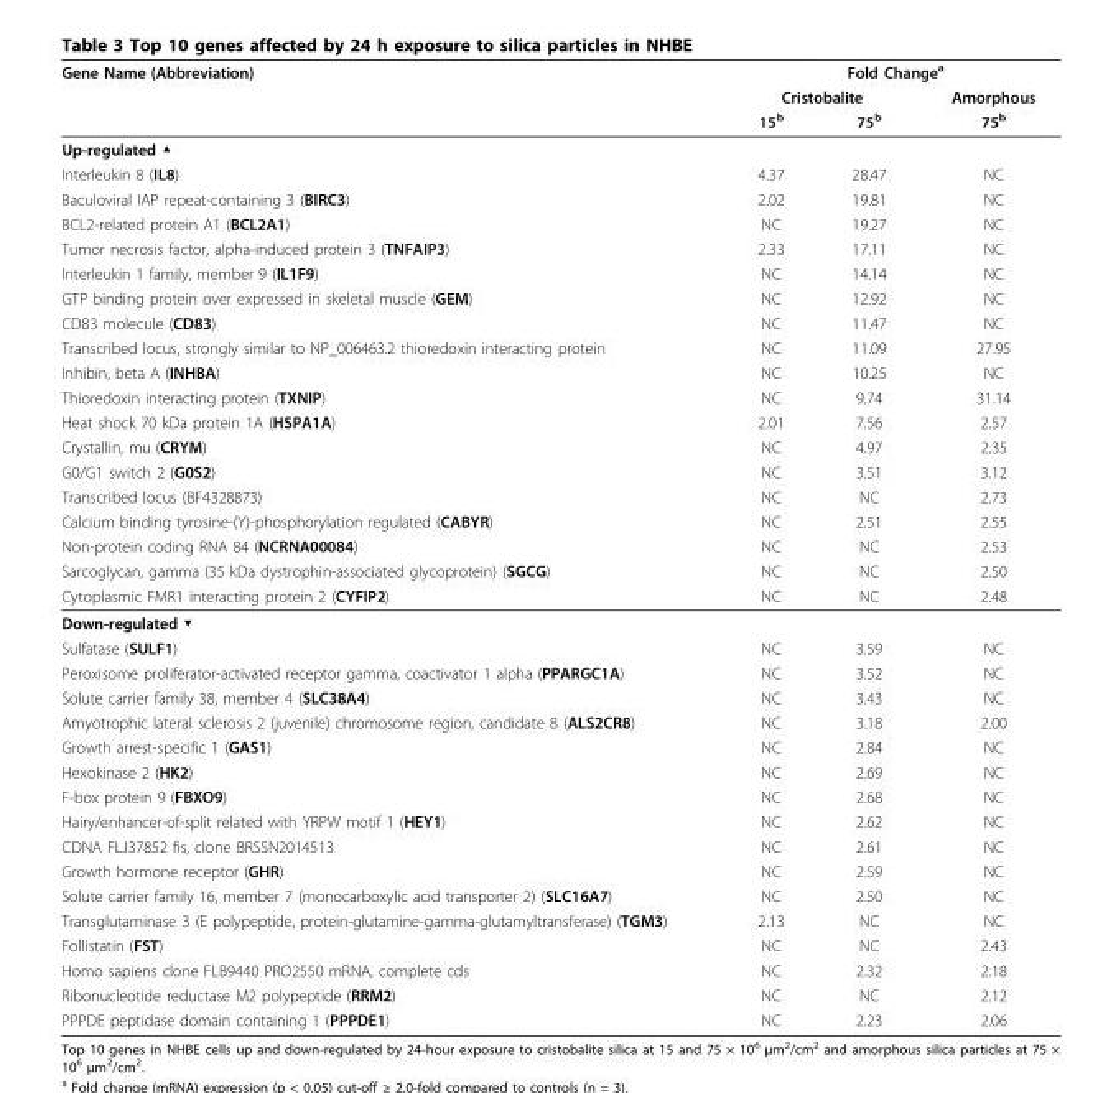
<table><thead><tr><td rowspan="3">Gene Name (Abbreviation)</td><td colspan="3">Fold Change<sup>a</sup></td></tr><tr><td colspan="2">Cristobalite</td><td rowspan="2">Amorphous 75<sup>b</sup></td></tr><tr><td>15<sup>b</sup></td><td>75<sup>b</sup></td></tr></thead><tbody><tr><td colspan="4">Up-regulated ▲</td></tr><tr><td>Interleukin 8 (IL8)</td><td>4.37</td><td>28.47</td><td>NC</td></tr><tr><td>Baculoviral IAP repeat-containing 3 (BIRC3)</td><td>2.02</td><td>19.81</td><td>NC</td></tr><tr><td>BCL2-related protein A1 (BCL2A1)</td><td>NC</td><td>19.27</td><td>NC</td></tr><tr><td>Tumor necrosis factor, alpha-induced protein 3 (TNFAIP3)</td><td>2.33</td><td>17.11</td><td>NC</td></tr><tr><td>Interleukin 1 family, member 9 (IL1F9)</td><td>NC</td><td>14.14</td><td>NC</td></tr><tr><td>GTP binding protein over expressed in skeletal muscle (GEM)</td><td>NC</td><td>12.92</td><td>NC</td></tr><tr><td>CD83 molecule (CD83)</td><td>NC</td><td>11.47</td><td>NC</td></tr><tr><td>Transcribed locus, strongly similar to NP_006463.2 thioredoxin interacting protein</td><td>NC</td><td>11.09</td><td>27.95</td></tr><tr><td>Inhibin, beta A (INHBA)</td><td>NC</td><td>10.25</td><td>NC</td></tr><tr><td>Thioredoxin interacting protein (TXNIP)</td><td>NC</td><td>9.74</td><td>31.14</td></tr><tr><td>Heat shock 70 kDa protein 1A (HSPA1A)</td><td>2.01</td><td>7.56</td><td>2.57</td></tr><tr><td>Crystallin, mu (CRYM)</td><td>NC</td><td>4.97</td><td>2.35</td></tr><tr><td>G0/G1 switch 2 (G0S2)</td><td>NC</td><td>3.51</td><td>3.12</td></tr><tr><td>Transcribed locus (BF4328873)</td><td>NC</td><td>NC</td><td>2.73</td></tr><tr><td>Calcium binding tyrosine-(Y)-phosphorylation regulated (CABYR)</td><td>NC</td><td>2.51</td><td>2.55</td></tr><tr><td>Non-protein coding RNA 84 (NCRNA00084)</td><td>NC</td><td>NC</td><td>2.53</td></tr><tr><td>Sarcoglycan, gamma (35 kDa dystrophin-associated glycoprotein) (SGCG)</td><td>NC</td><td>NC</td><td>2.50</td></tr><tr><td>Cytoplasmic FMR1 interacting protein 2 (CYFIP2)</td><td>NC</td><td>NC</td><td>2.48</td></tr><tr><td colspan="4">Down-regulated ▼</td></tr><tr><td>Sulfatase (SULF1)</td><td>NC</td><td>3.59</td><td>NC</td></tr><tr><td>Peroxisome proliferator-activated receptor gamma, coactivator 1 alpha (PPARGC1A)</td><td>NC</td><td>3.52</td><td>NC</td></tr><tr><td>Solute carrier family 38, member 4 (SLC38A4)</td><td>NC</td><td>3.43</td><td>NC</td></tr><tr><td>Amyotrophic lateral sclerosis 2 (juvenile) chromosome region, candidate 8 (ALS2CR8)</td><td>NC</td><td>3.18</td><td>2.00</td></tr><tr><td>Growth arrest-specific 1 (GAS1)</td><td>NC</td><td>2.84</td><td>NC</td></tr><tr><td>Hexokinase 2 (HK2)</td><td>NC</td><td>2.69</td><td>NC</td></tr><tr><td>F-box protein 9 (FBXO9)</td><td>NC</td><td>2.68</td><td>NC</td></tr><tr><td>Hairy/enhancer-of-split related with YRPW motif 1 (HEY1)</td><td>NC</td><td>2.62</td><td>NC</td></tr><tr><td>CDNA FLJ37852 fis, clone BRSSN2014513</td><td>NC</td><td>2.61</td><td>NC</td></tr><tr><td>Growth hormone receptor (GHR)</td><td>NC</td><td>2.59</td><td>NC</td></tr><tr><td>Solute carrier family 16, member 7 (monocarboxylic acid transporter 2) (SLC16A7)</td><td>NC</td><td>2.50</td><td>NC</td></tr><tr><td>Transglutaminase 3 (E polypeptide, protein-glutamine-gamma-glutamyltransferase) (TGM3)</td><td>2.13</td><td>NC</td><td>NC</td></tr><tr><td>Follistatin (FST)</td><td>NC</td><td>NC</td><td>2.43</td></tr><tr><td>Homo sapiens clone FLB9440 PRO2550 mRNA, complete cds</td><td>NC</td><td>2.32</td><td>2.18</td></tr><tr><td>Ribonucleotide reductase M2 polypeptide (RRM2)</td><td>NC</td><td>NC</td><td>2.12</td></tr><tr><td>PPPDE peptidase domain containing 1 (PPPDE1)</td><td>NC</td><td>2.23</td><td>2.06</td></tr></tbody></table>